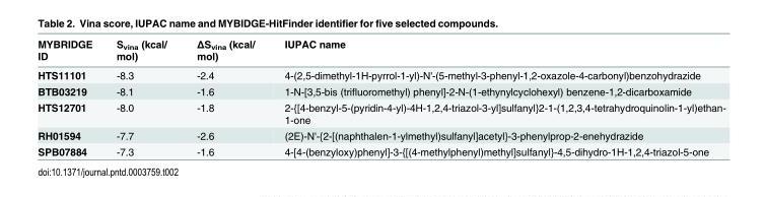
<table><thead><tr><td>MYBRIDGE ID</td><td>S<sub>vina</sub> (kcal/ mol)</td><td>ΔS<sub>vina</sub> (kcal/ mol)</td><td>IUPAC name</td></tr></thead><tbody><tr><td>HTS11101</td><td>-8.3</td><td>-2.4</td><td>4-(2,5-dimethyl-1H-pyrrol-1-yl)-N&#x27;-(5-methyl-3-phenyl-1,2-oxazole-4-carbonyl)benzohydrazide</td></tr><tr><td>BTB03219</td><td>-8.1</td><td>-1.6</td><td>1-N-[3,5-bis (trifluoromethyl) phenyl]-2-N-(1-ethynylcyclohexyl) benzene-1,2-dicarboxamide</td></tr><tr><td>HTS12701</td><td>-8.0</td><td>-1.8</td><td>2-{[4-benzyl-5-(pyridin-4-yl)-4H-1,2,4-triazol-3-yl]sulfanyl}2-1-(1,2,3,4-tetrahydroquinolin-1-yl)ethan- 1-one</td></tr><tr><td>RH01594</td><td>-7.7</td><td>-2.6</td><td>(2E)-N&#x27;-{2-[(naphthalen-1-ylmethyl)sulfanyl]acetyl}-3-phenylprop-2-enehydrazide</td></tr><tr><td>SPB07884</td><td>-7.3</td><td>-1.6</td><td>4-[4-(benzyloxy)phenyl]-3-{[(4-methylphenyl)methyl]sulfanyl}-4,5-dihydro-1H-1,2,4-triazol-5-one</td></tr></tbody></table>